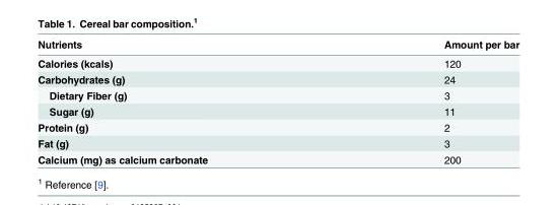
<table><thead><tr><td>Nutrients</td><td>Amount per bar</td></tr></thead><tbody><tr><td>Calories (kcals)</td><td>120</td></tr><tr><td>Carbohydrates (g)</td><td>24</td></tr><tr><td>Dietary Fiber (g)</td><td>3</td></tr><tr><td>Sugar (g)</td><td>11</td></tr><tr><td>Protein (g)</td><td>2</td></tr><tr><td>Fat (g)</td><td>3</td></tr><tr><td>Calcium (mg) as calcium carbonate</td><td>200</td></tr></tbody></table>